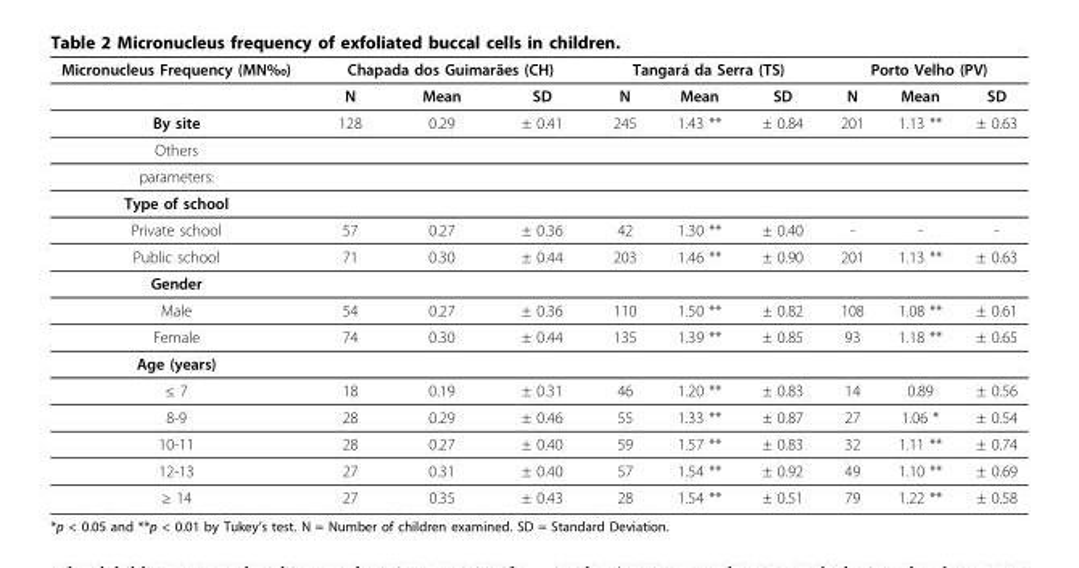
<table><thead><tr><td rowspan="2">Micronucleus Frequency (MN‰)</td><td colspan="3">Chapada dos Guimarães (CH)</td><td colspan="3">Tangará da Serra (TS)</td><td colspan="3">Porto Velho (PV)</td></tr><tr><td>N</td><td>Mean</td><td>SD</td><td>N</td><td>Mean</td><td>SD</td><td>N</td><td>Mean</td><td>SD</td></tr></thead><tbody><tr><td>By site</td><td>128</td><td>0.29</td><td>± 0.41</td><td>245</td><td>1.43 **</td><td>± 0.84</td><td>201</td><td>1.13 **</td><td>± 0.63</td></tr><tr><td colspan="10">Others</td></tr><tr><td colspan="10">parameters:</td></tr><tr><td colspan="10">Type of school</td></tr><tr><td>Private school</td><td>57</td><td>0.27</td><td>± 0.36</td><td>42</td><td>1.30 **</td><td>± 0.40</td><td>-</td><td>-</td><td>-</td></tr><tr><td>Public school</td><td>71</td><td>0.30</td><td>± 0.44</td><td>203</td><td>1.46 **</td><td>± 0.90</td><td>201</td><td>1.13 **</td><td>± 0.63</td></tr><tr><td colspan="10">Gender</td></tr><tr><td>Male</td><td>54</td><td>0.27</td><td>± 0.36</td><td>110</td><td>1.50 **</td><td>± 0.82</td><td>108</td><td>1.08 **</td><td>± 0.61</td></tr><tr><td>Female</td><td>74</td><td>0.30</td><td>± 0.44</td><td>135</td><td>1.39 **</td><td>± 0.85</td><td>93</td><td>1.18 **</td><td>± 0.65</td></tr><tr><td colspan="10">Age (years)</td></tr><tr><td>≤ 7</td><td>18</td><td>0.19</td><td>± 0.31</td><td>46</td><td>1.20 **</td><td>± 0.83</td><td>14</td><td>0.89</td><td>± 0.56</td></tr><tr><td>8-9</td><td>28</td><td>0.29</td><td>± 0.46</td><td>55</td><td>1.33 **</td><td>± 0.87</td><td>27</td><td>1.06 *</td><td>± 0.54</td></tr><tr><td>10-11</td><td>28</td><td>0.27</td><td>± 0.40</td><td>59</td><td>1.57 **</td><td>± 0.83</td><td>32</td><td>1.11 **</td><td>± 0.74</td></tr><tr><td>12-13</td><td>27</td><td>0.31</td><td>± 0.40</td><td>57</td><td>1.54 **</td><td>± 0.92</td><td>49</td><td>1.10 **</td><td>± 0.69</td></tr><tr><td>≥ 14</td><td>27</td><td>0.35</td><td>± 0.43</td><td>28</td><td>1.54 **</td><td>± 0.51</td><td>79</td><td>1.22 **</td><td>± 0.58</td></tr></tbody></table>